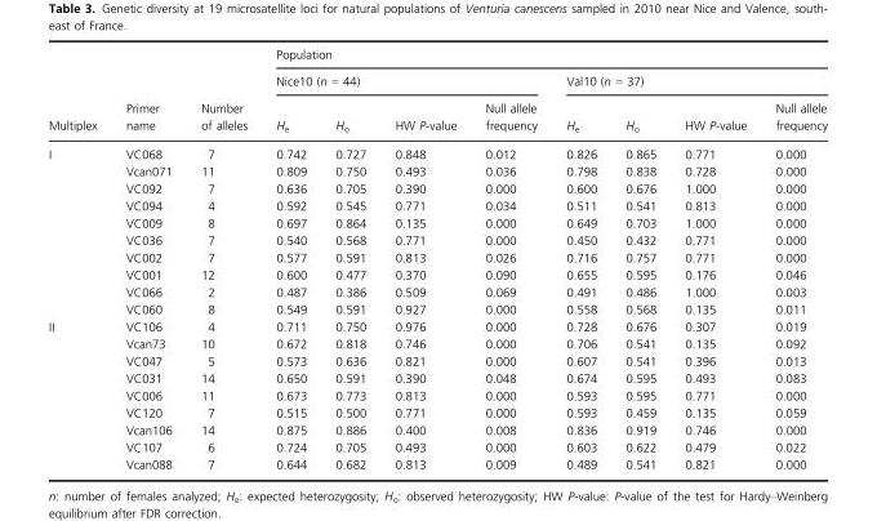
<table><thead><tr><td rowspan="3">Multiplex</td><td rowspan="3">Primer name</td><td rowspan="3">Number of alleles</td><td colspan="8">Population</td></tr><tr><td colspan="4">Nice10 (n = 44)</td><td colspan="4">Val10 (n = 37)</td></tr><tr><td>H<sub>e</sub></td><td>H<sub>o</sub></td><td>HW P-value</td><td>Null allele frequency</td><td>H<sub>e</sub></td><td>H<sub>o</sub></td><td>HW P-value</td><td>Null allele frequency</td></tr></thead><tbody><tr><td rowspan="10">I</td><td>VC068</td><td>7</td><td>0.742</td><td>0.727</td><td>0.848</td><td>0.012</td><td>0.826</td><td>0.865</td><td>0.771</td><td>0.000</td></tr><tr><td>Vcan071</td><td>11</td><td>0.809</td><td>0.750</td><td>0.493</td><td>0.036</td><td>0.798</td><td>0.838</td><td>0.728</td><td>0.000</td></tr><tr><td>VC092</td><td>7</td><td>0.636</td><td>0.705</td><td>0.390</td><td>0.000</td><td>0.600</td><td>0.676</td><td>1.000</td><td>0.000</td></tr><tr><td>VC094</td><td>4</td><td>0.592</td><td>0.545</td><td>0.771</td><td>0.034</td><td>0.511</td><td>0.541</td><td>0.813</td><td>0.000</td></tr><tr><td>VC009</td><td>8</td><td>0.697</td><td>0.864</td><td>0.135</td><td>0.000</td><td>0.649</td><td>0.703</td><td>1.000</td><td>0.000</td></tr><tr><td>VC036</td><td>7</td><td>0.540</td><td>0.568</td><td>0.771</td><td>0.000</td><td>0.450</td><td>0.432</td><td>0.771</td><td>0.000</td></tr><tr><td>VC002</td><td>7</td><td>0.577</td><td>0.591</td><td>0.813</td><td>0.026</td><td>0.716</td><td>0.757</td><td>0.771</td><td>0.000</td></tr><tr><td>VC001</td><td>12</td><td>0.600</td><td>0.477</td><td>0.370</td><td>0.090</td><td>0.655</td><td>0.595</td><td>0.176</td><td>0.046</td></tr><tr><td>VC066</td><td>2</td><td>0.487</td><td>0.386</td><td>0.509</td><td>0.069</td><td>0.491</td><td>0.486</td><td>1.000</td><td>0.003</td></tr><tr><td>VC060</td><td>8</td><td>0.549</td><td>0.591</td><td>0.927</td><td>0.000</td><td>0.558</td><td>0.568</td><td>0.135</td><td>0.011</td></tr><tr><td rowspan="9">II</td><td>VC106</td><td>4</td><td>0.711</td><td>0.750</td><td>0.976</td><td>0.000</td><td>0.728</td><td>0.676</td><td>0.307</td><td>0.019</td></tr><tr><td>Vcan73</td><td>10</td><td>0.672</td><td>0.818</td><td>0.746</td><td>0.000</td><td>0.706</td><td>0.541</td><td>0.135</td><td>0.092</td></tr><tr><td>VC047</td><td>5</td><td>0.573</td><td>0.636</td><td>0.821</td><td>0.000</td><td>0.607</td><td>0.541</td><td>0.396</td><td>0.013</td></tr><tr><td>VC031</td><td>14</td><td>0.650</td><td>0.591</td><td>0.390</td><td>0.048</td><td>0.674</td><td>0.595</td><td>0.493</td><td>0.083</td></tr><tr><td>VC006</td><td>11</td><td>0.673</td><td>0.773</td><td>0.813</td><td>0.000</td><td>0.593</td><td>0.595</td><td>0.771</td><td>0.000</td></tr><tr><td>VC120</td><td>7</td><td>0.515</td><td>0.500</td><td>0.771</td><td>0.000</td><td>0.593</td><td>0.459</td><td>0.135</td><td>0.059</td></tr><tr><td>Vcan106</td><td>14</td><td>0.875</td><td>0.886</td><td>0.400</td><td>0.008</td><td>0.836</td><td>0.919</td><td>0.746</td><td>0.000</td></tr><tr><td>VC107</td><td>6</td><td>0.724</td><td>0.705</td><td>0.493</td><td>0.000</td><td>0.603</td><td>0.622</td><td>0.479</td><td>0.022</td></tr><tr><td>Vcan088</td><td>7</td><td>0.644</td><td>0.682</td><td>0.813</td><td>0.009</td><td>0.489</td><td>0.541</td><td>0.821</td><td>0.000</td></tr></tbody></table>